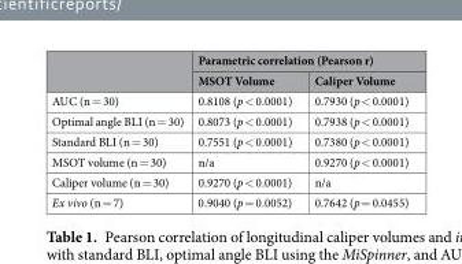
<table><thead><tr><td rowspan="2"></td><td colspan="2">Parametric correlation (Pearson r)</td></tr><tr><td>MSOT Volume</td><td>Caliper Volume</td></tr></thead><tbody><tr><td>AUC (n = 30)</td><td>0.8108 (p &lt; 0.0001)</td><td>0.7930 (p &lt; 0.0001)</td></tr><tr><td>Optimal angle BLI (n = 30)</td><td>0.8073 (p &lt; 0.0001)</td><td>0.7938 (p &lt; 0.0001)</td></tr><tr><td>Standard BLI (n = 30)</td><td>0.7551 (p &lt; 0.0001)</td><td>0.7380 (p &lt; 0.0001)</td></tr><tr><td>MSOT volume (n = 30)</td><td>n/a</td><td>0.9270 (p &lt; 0.0001)</td></tr><tr><td>Caliper volume (n = 30)</td><td>0.9270 (p &lt; 0.0001)</td><td>n/a</td></tr><tr><td>Ex vivo (n = 7)</td><td>0.9040 (p = 0.0052)</td><td>0.7642 (p = 0.0455)</td></tr></tbody></table>